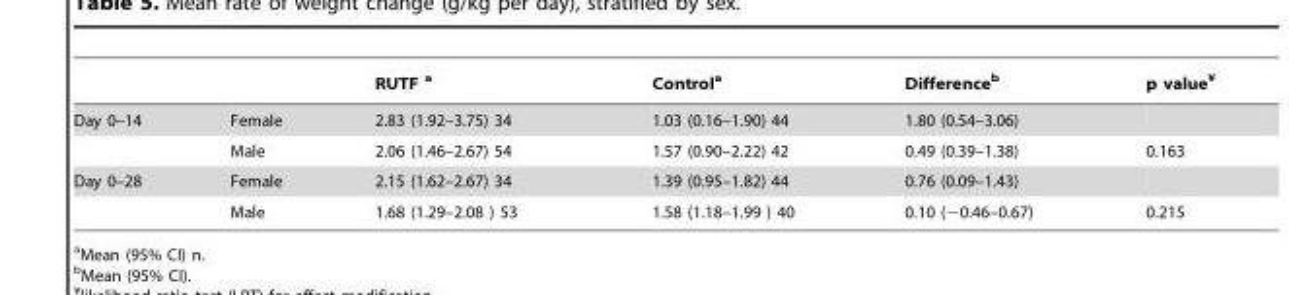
<table><thead><tr><td></td><td></td><td>RUTF a</td><td>Control<sup>a</sup></td><td>Difference<sup>b</sup></td><td>p value¥</td></tr></thead><tbody><tr><td rowspan="2">Day 0–14</td><td>Female</td><td>2.83 (1.92–3.75) 34</td><td>1.03 (0.16–1.90) 44</td><td>1.80 (0.54–3.06)</td><td></td></tr><tr><td>Male</td><td>2.06 (1.46–2.67) 54</td><td>1.57 (0.90–2.22) 42</td><td>0.49 (0.39–1.38)</td><td>0.163</td></tr><tr><td rowspan="2">Day 0–28</td><td>Female</td><td>2.15 (1.62–2.67) 34</td><td>1.39 (0.95–1.82) 44</td><td>0.76 (0.09–1.43)</td><td></td></tr><tr><td>Male</td><td>1.68 (1.29–2.08 ) 53</td><td>1.58 (1.18–1.99 ) 40</td><td>0.10 (−0.46–0.67)</td><td>0.215</td></tr></tbody></table>